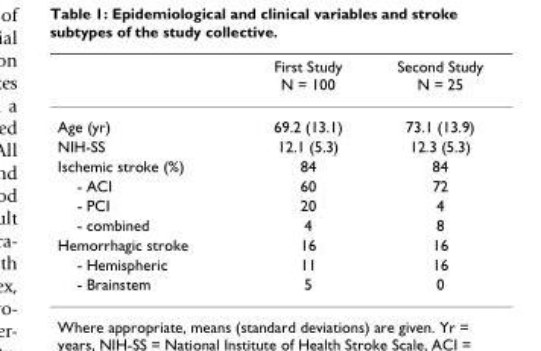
<table><thead><tr><td></td><td>First Study N = 100</td><td>Second Study N = 25</td></tr></thead><tbody><tr><td>Age (yr)</td><td>69.2 (13.1)</td><td>73.1 (13.9)</td></tr><tr><td>NIH-SS</td><td>12.1 (5.3)</td><td>12.3 (5.3)</td></tr><tr><td>Ischemic stroke (%)</td><td>84</td><td>84</td></tr><tr><td>- ACI</td><td>60</td><td>72</td></tr><tr><td>- PCI</td><td>20</td><td>4</td></tr><tr><td>- combined</td><td>4</td><td>8</td></tr><tr><td>Hemorrhagic stroke</td><td>16</td><td>16</td></tr><tr><td>- Hemispheric</td><td>11</td><td>16</td></tr><tr><td>- Brainstem</td><td>5</td><td>0</td></tr></tbody></table>